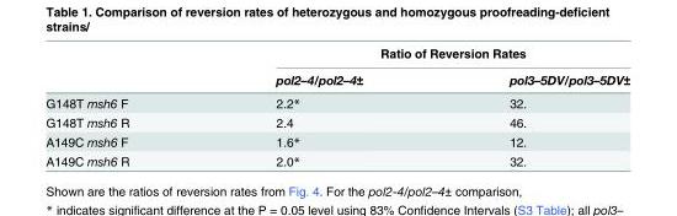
<table><thead><tr><td rowspan="2"></td><td colspan="2">Ratio of Reversion Rates</td></tr><tr><td>pol2–4/pol2–4±</td><td>pol3–5DV/pol3–5DV±</td></tr></thead><tbody><tr><td>G148T msh6 F</td><td>2.2*</td><td>32.</td></tr><tr><td>G148T msh6 R</td><td>2.4</td><td>46.</td></tr><tr><td>A149C msh6 F</td><td>1.6*</td><td>12.</td></tr><tr><td>A149C msh6 R</td><td>2.0*</td><td>32.</td></tr></tbody></table>